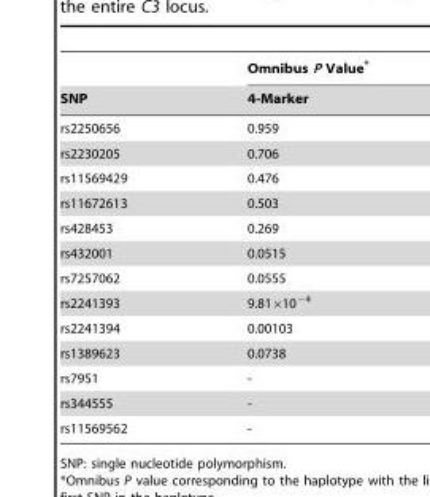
<table><thead><tr><td rowspan="2">SNP</td><td rowspan="2">Omnibus P Value* 4-Marker</td></tr><tr></tr></thead><tbody><tr><td>rs2250656</td><td>0.959</td></tr><tr><td>rs2230205</td><td>0.706</td></tr><tr><td>rs11569429</td><td>0.476</td></tr><tr><td>rs11672613</td><td>0.503</td></tr><tr><td>rs428453</td><td>0.269</td></tr><tr><td>rs432001</td><td>0.0515</td></tr><tr><td>rs7257062</td><td>0.0555</td></tr><tr><td>rs2241393</td><td>9.81×10<sup>−4</sup></td></tr><tr><td>rs2241394</td><td>0.00103</td></tr><tr><td>rs1389623</td><td>0.0738</td></tr><tr><td>rs7951</td><td>-</td></tr><tr><td>rs344555</td><td>-</td></tr><tr><td>rs11569562</td><td>-</td></tr></tbody></table>